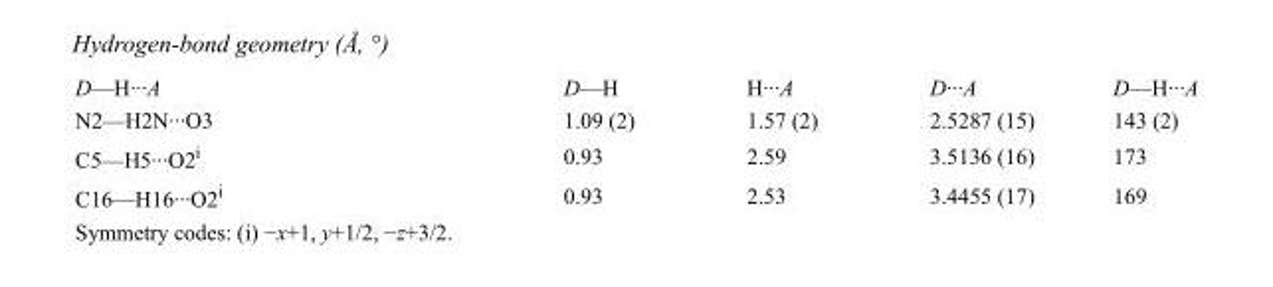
<table><tbody><tr><td>D—H···A</td><td>D—H</td><td>H···A</td><td>D···A</td><td>D—H···A</td></tr><tr><td>N2—H2N···O3</td><td>1.09 (2)</td><td>1.57 (2)</td><td>2.5287 (15)</td><td>143 (2)</td></tr><tr><td>C5—H5···O2<sup>i</sup></td><td>0.93</td><td>2.59</td><td>3.5136 (16)</td><td>173</td></tr><tr><td>C16—H16···O2<sup>i</sup></td><td>0.93</td><td>2.53</td><td>3.4455 (17)</td><td>169</td></tr></tbody></table>